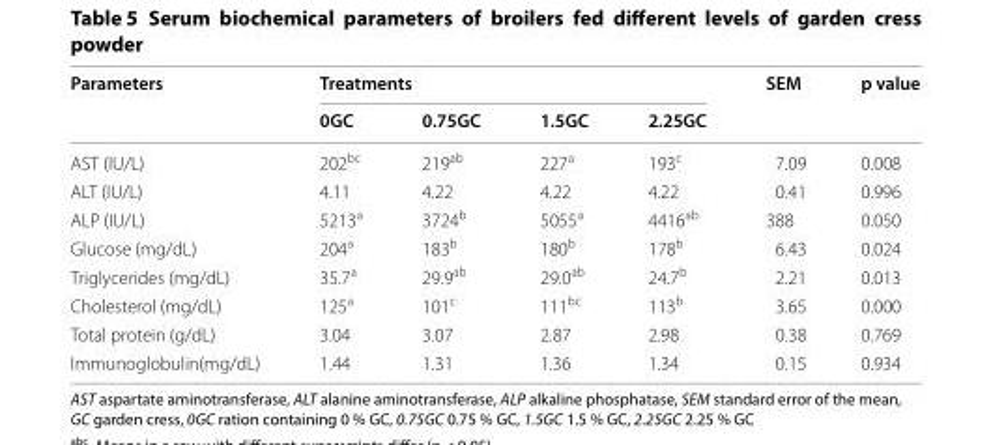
<table><thead><tr><td rowspan="2">Parameters</td><td colspan="4">Treatments</td><td rowspan="2">SEM</td><td rowspan="2">p value</td></tr><tr><td>0GC</td><td>0.75GC</td><td>1.5GC</td><td>2.25GC</td></tr></thead><tbody><tr><td>AST (IU/L)</td><td>202<sup>bc</sup></td><td>219<sup>ab</sup></td><td>227<sup>a</sup></td><td>193<sup>c</sup></td><td>7.09</td><td>0.008</td></tr><tr><td>ALT (IU/L)</td><td>4.11</td><td>4.22</td><td>4.22</td><td>4.22</td><td>0.41</td><td>0.996</td></tr><tr><td>ALP (IU/L)</td><td>5213<sup>a</sup></td><td>3724<sup>b</sup></td><td>5055<sup>a</sup></td><td>4416<sup>ab</sup></td><td>388</td><td>0.050</td></tr><tr><td>Glucose (mg/dL)</td><td>204<sup>a</sup></td><td>183<sup>b</sup></td><td>180<sup>b</sup></td><td>178<sup>b</sup></td><td>6.43</td><td>0.024</td></tr><tr><td>Triglycerides (mg/dL)</td><td>35.7<sup>a</sup></td><td>29.9<sup>ab</sup></td><td>29.0<sup>ab</sup></td><td>24.7<sup>b</sup></td><td>2.21</td><td>0.013</td></tr><tr><td>Cholesterol (mg/dL)</td><td>125<sup>a</sup></td><td>101<sup>c</sup></td><td>111<sup>bc</sup></td><td>113<sup>b</sup></td><td>3.65</td><td>0.000</td></tr><tr><td>Total protein (g/dL)</td><td>3.04</td><td>3.07</td><td>2.87</td><td>2.98</td><td>0.38</td><td>0.769</td></tr><tr><td>Immunoglobulin(mg/dL)</td><td>1.44</td><td>1.31</td><td>1.36</td><td>1.34</td><td>0.15</td><td>0.934</td></tr></tbody></table>